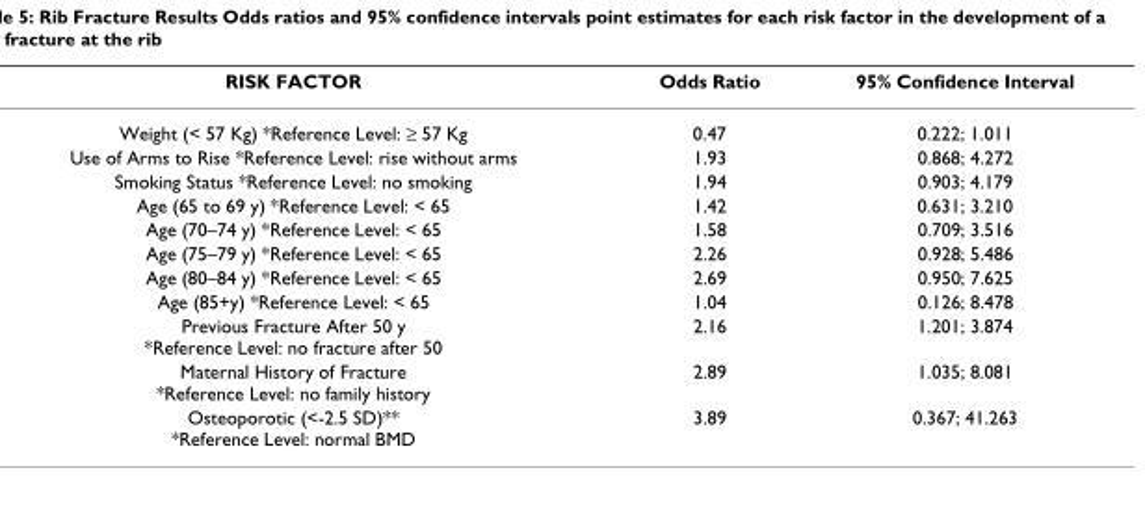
<table><thead><tr><td>RISK FACTOR</td><td>Odds Ratio</td><td>95% Confidence Interval</td></tr></thead><tbody><tr><td>Weight (&lt; 57 Kg) *Reference Level: ≥ 57 Kg</td><td>0.47</td><td>0.222; 1.011</td></tr><tr><td>Use of Arms to Rise *Reference Level: rise without arms</td><td>1.93</td><td>0.868; 4.272</td></tr><tr><td>Smoking Status *Reference Level: no smoking</td><td>1.94</td><td>0.903; 4.179</td></tr><tr><td>Age (65 to 69 y) *Reference Level: &lt; 65</td><td>1.42</td><td>0.631; 3.210</td></tr><tr><td>Age (70–74 y) *Reference Level: &lt; 65</td><td>1.58</td><td>0.709; 3.516</td></tr><tr><td>Age (75–79 y) *Reference Level: &lt; 65</td><td>2.26</td><td>0.928; 5.486</td></tr><tr><td>Age (80–84 y) *Reference Level: &lt; 65</td><td>2.69</td><td>0.950; 7.625</td></tr><tr><td>Age (85+y) *Reference Level: &lt; 65</td><td>1.04</td><td>0.126; 8.478</td></tr><tr><td>Previous Fracture After 50 y *Reference Level: no fracture after 50</td><td>2.16</td><td>1.201; 3.874</td></tr><tr><td>Maternal History of Fracture *Reference Level: no family history</td><td>2.89</td><td>1.035; 8.081</td></tr><tr><td>Osteoporotic (&lt;-2.5 SD)** *Reference Level: normal BMD</td><td>3.89</td><td>0.367; 41.263</td></tr></tbody></table>